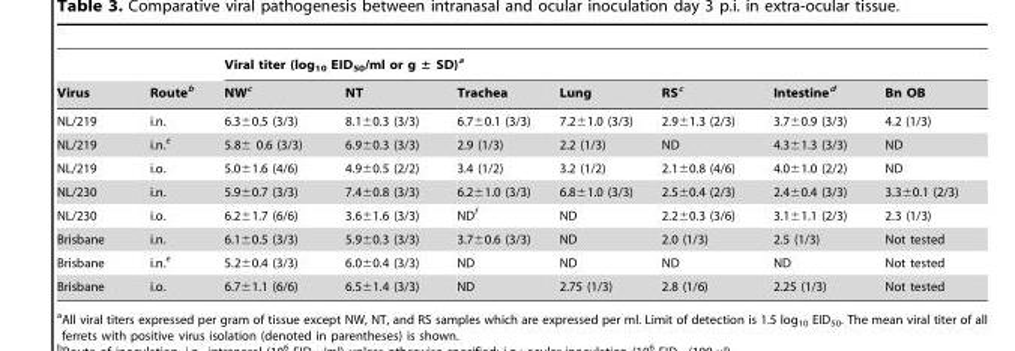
<table><thead><tr><td rowspan="2">Virus</td><td rowspan="2">Route<sup>b</sup></td><td colspan="7">Viral titer (log<sub>10</sub> EID<sub>50</sub>/ml or g ± SD)<sup>a</sup></td></tr><tr><td>NW<sup>c</sup></td><td>NT</td><td>Trachea</td><td>Lung</td><td>RS<sup>c</sup></td><td>Intestine<sup>d</sup></td><td>Bn OB</td></tr></thead><tbody><tr><td>NL/219</td><td>i.n.</td><td>6.3±0.5 (3/3)</td><td>8.1±0.3 (3/3)</td><td>6.7±0.1 (3/3)</td><td>7.2±1.0 (3/3)</td><td>2.9±1.3 (2/3)</td><td>3.7±0.9 (3/3)</td><td>4.2 (1/3)</td></tr><tr><td>NL/219</td><td>i.n.<sup>e</sup></td><td>5.8± 0.6 (3/3)</td><td>6.9±0.3 (3/3)</td><td>2.9 (1/3)</td><td>2.2 (1/3)</td><td>ND</td><td>4.3±1.3 (3/3)</td><td>ND</td></tr><tr><td>NL/219</td><td>i.o.</td><td>5.0±1.6 (4/6)</td><td>4.9±0.5 (2/2)</td><td>3.4 (1/2)</td><td>3.2 (1/2)</td><td>2.1±0.8 (4/6)</td><td>4.0±1.0 (2/2)</td><td>ND</td></tr><tr><td>NL/230</td><td>i.n.</td><td>5.9±0.7 (3/3)</td><td>7.4±0.8 (3/3)</td><td>6.2±1.0 (3/3)</td><td>6.8±1.0 (3/3)</td><td>2.5±0.4 (2/3)</td><td>2.4±0.4 (3/3)</td><td>3.3±0.1 (2/3)</td></tr><tr><td>NL/230</td><td>i.o.</td><td>6.2±1.7 (6/6)</td><td>3.6±1.6 (3/3)</td><td>ND<sup>f</sup></td><td>ND</td><td>2.2±0.3 (3/6)</td><td>3.1±1.1 (2/3)</td><td>2.3 (1/3)</td></tr><tr><td>Brisbane</td><td>i.n.</td><td>6.1±0.5 (3/3)</td><td>5.9±0.3 (3/3)</td><td>3.7±0.6 (3/3)</td><td>ND</td><td>2.0 (1/3)</td><td>2.5 (1/3)</td><td>Not tested</td></tr><tr><td>Brisbane</td><td>i.n.<sup>e</sup></td><td>5.2±0.4 (3/3)</td><td>6.0±0.4 (3/3)</td><td>ND</td><td>ND</td><td>ND</td><td>ND</td><td>Not tested</td></tr><tr><td>Brisbane</td><td>i.o.</td><td>6.7±1.1 (6/6)</td><td>6.5±1.4 (3/3)</td><td>ND</td><td>2.75 (1/3)</td><td>2.8 (1/6)</td><td>2.25 (1/3)</td><td>Not tested</td></tr></tbody></table>